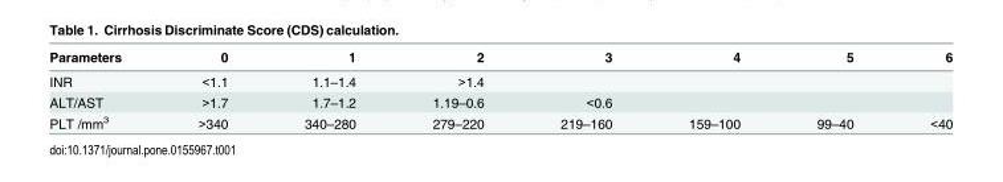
<table><thead><tr><td>Parameters</td><td>0</td><td>1</td><td>2</td><td>3</td><td>4</td><td>5</td><td>6</td></tr></thead><tbody><tr><td>INR</td><td>&lt;1.1</td><td>1.1–1.4</td><td>&gt;1.4</td><td></td><td></td><td></td><td></td></tr><tr><td>ALT/AST</td><td>&gt;1.7</td><td>1.7–1.2</td><td>1.19–0.6</td><td>&lt;0.6</td><td></td><td></td><td></td></tr><tr><td>PLT /mm<sup>3</sup></td><td>&gt;340</td><td>340–280</td><td>279–220</td><td>219–160</td><td>159–100</td><td>99–40</td><td>&lt;40</td></tr></tbody></table>